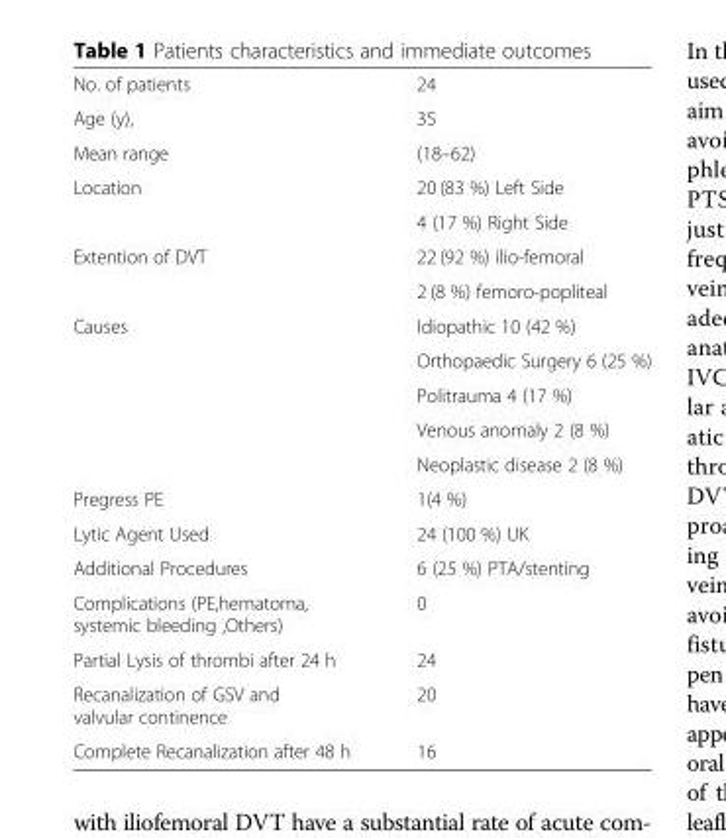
<table><tbody><tr><td>No. of patients</td><td>24</td></tr><tr><td>Age (y),</td><td>35</td></tr><tr><td>Mean range</td><td>(18–62)</td></tr><tr><td rowspan="2">Location</td><td>20 (83 %) Left Side</td></tr><tr><td>4 (17 %) Right Side</td></tr><tr><td rowspan="2">Extention of DVT</td><td>22 (92 %) ilio-femoral</td></tr><tr><td>2 (8 %) femoro-popliteal</td></tr><tr><td rowspan="5">Causes</td><td>Idiopathic 10 (42 %)</td></tr><tr><td>Orthopaedic Surgery 6 (25 %)</td></tr><tr><td>Politrauma 4 (17 %)</td></tr><tr><td>Venous anomaly 2 (8 %)</td></tr><tr><td>Neoplastic disease 2 (8 %)</td></tr><tr><td>Pregress PE</td><td>1(4 %)</td></tr><tr><td>Lytic Agent Used</td><td>24 (100 %) UK</td></tr><tr><td>Additional Procedures</td><td>6 (25 %) PTA/stenting</td></tr><tr><td>Complications (PE,hematoma, systemic bleeding ,Others)</td><td>0</td></tr><tr><td>Partial Lysis of thrombi after 24 h</td><td>24</td></tr><tr><td>Recanalization of GSV and valvular continence</td><td>20</td></tr><tr><td>Complete Recanalization after 48 h</td><td>16</td></tr></tbody></table>